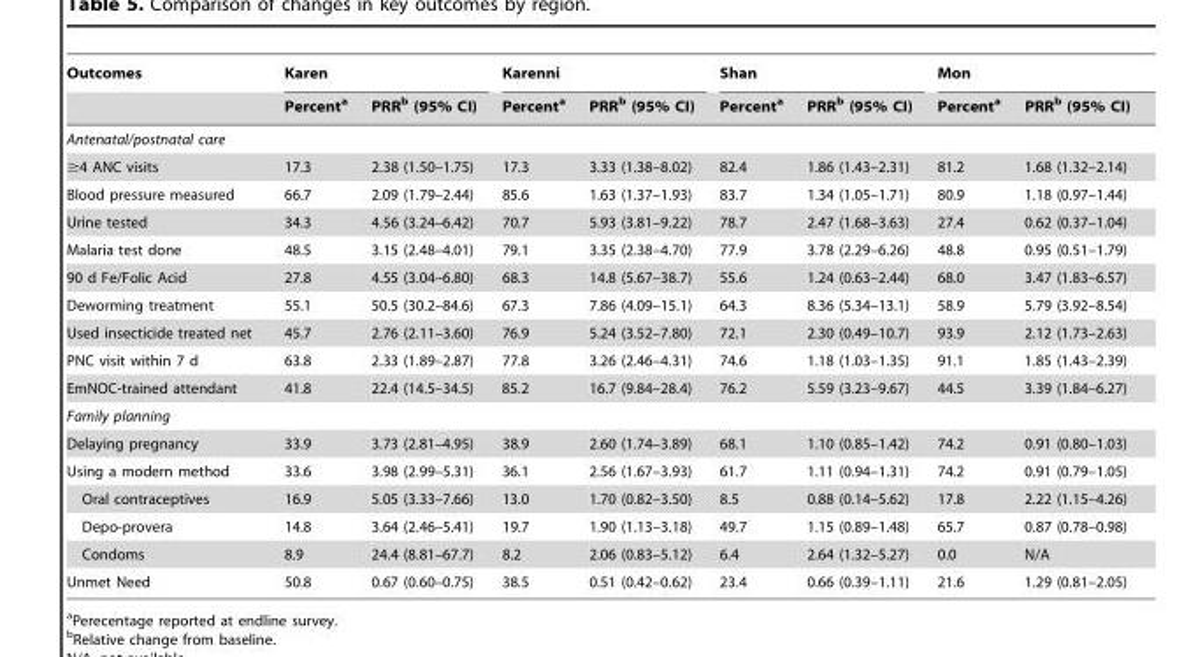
<table><thead><tr><td rowspan="2">Outcomes</td><td colspan="2">Karen</td><td colspan="2">Karenni</td><td colspan="2">Shan</td><td colspan="2">Mon</td></tr><tr><td>Percent<sup>a</sup></td><td>PRR<sup>b</sup> (95% CI)</td><td>Percent<sup>a</sup></td><td>PRR<sup>b</sup> (95% CI)</td><td>Percent<sup>a</sup></td><td>PRR<sup>b</sup> (95% CI)</td><td>Percent<sup>a</sup></td><td>PRR<sup>b</sup> (95% CI)</td></tr></thead><tbody><tr><td colspan="9">Antenatal/postnatal care</td></tr><tr><td>≥4 ANC visits</td><td>17.3</td><td>2.38 (1.50–1.75)</td><td>17.3</td><td>3.33 (1.38–8.02)</td><td>82.4</td><td>1.86 (1.43–2.31)</td><td>81.2</td><td>1.68 (1.32–2.14)</td></tr><tr><td>Blood pressure measured</td><td>66.7</td><td>2.09 (1.79–2.44)</td><td>85.6</td><td>1.63 (1.37–1.93)</td><td>83.7</td><td>1.34 (1.05–1.71)</td><td>80.9</td><td>1.18 (0.97–1.44)</td></tr><tr><td>Urine tested</td><td>34.3</td><td>4.56 (3.24–6.42)</td><td>70.7</td><td>5.93 (3.81–9.22)</td><td>78.7</td><td>2.47 (1.68–3.63)</td><td>27.4</td><td>0.62 (0.37–1.04)</td></tr><tr><td>Malaria test done</td><td>48.5</td><td>3.15 (2.48–4.01)</td><td>79.1</td><td>3.35 (2.38–4.70)</td><td>77.9</td><td>3.78 (2.29–6.26)</td><td>48.8</td><td>0.95 (0.51–1.79)</td></tr><tr><td>90 d Fe/Folic Acid</td><td>27.8</td><td>4.55 (3.04–6.80)</td><td>68.3</td><td>14.8 (5.67–38.7)</td><td>55.6</td><td>1.24 (0.63–2.44)</td><td>68.0</td><td>3.47 (1.83–6.57)</td></tr><tr><td>Deworming treatment</td><td>55.1</td><td>50.5 (30.2–84.6)</td><td>67.3</td><td>7.86 (4.09–15.1)</td><td>64.3</td><td>8.36 (5.34–13.1)</td><td>58.9</td><td>5.79 (3.92–8.54)</td></tr><tr><td>Used insecticide treated net</td><td>45.7</td><td>2.76 (2.11–3.60)</td><td>76.9</td><td>5.24 (3.52–7.80)</td><td>72.1</td><td>2.30 (0.49–10.7)</td><td>93.9</td><td>2.12 (1.73–2.63)</td></tr><tr><td>PNC visit within 7 d</td><td>63.8</td><td>2.33 (1.89–2.87)</td><td>77.8</td><td>3.26 (2.46–4.31)</td><td>74.6</td><td>1.18 (1.03–1.35)</td><td>91.1</td><td>1.85 (1.43–2.39)</td></tr><tr><td>EmNOC-trained attendant</td><td>41.8</td><td>22.4 (14.5–34.5)</td><td>85.2</td><td>16.7 (9.84–28.4)</td><td>76.2</td><td>5.59 (3.23–9.67)</td><td>44.5</td><td>3.39 (1.84–6.27)</td></tr><tr><td colspan="9">Family planning</td></tr><tr><td>Delaying pregnancy</td><td>33.9</td><td>3.73 (2.81–4.95)</td><td>38.9</td><td>2.60 (1.74–3.89)</td><td>68.1</td><td>1.10 (0.85–1.42)</td><td>74.2</td><td>0.91 (0.80–1.03)</td></tr><tr><td>Using a modern method</td><td>33.6</td><td>3.98 (2.99–5.31)</td><td>36.1</td><td>2.56 (1.67–3.93)</td><td>61.7</td><td>1.11 (0.94–1.31)</td><td>74.2</td><td>0.91 (0.79–1.05)</td></tr><tr><td>Oral contraceptives</td><td>16.9</td><td>5.05 (3.33–7.66)</td><td>13.0</td><td>1.70 (0.82–3.50)</td><td>8.5</td><td>0.88 (0.14–5.62)</td><td>17.8</td><td>2.22 (1.15–4.26)</td></tr><tr><td>Depo-provera</td><td>14.8</td><td>3.64 (2.46–5.41)</td><td>19.7</td><td>1.90 (1.13–3.18)</td><td>49.7</td><td>1.15 (0.89–1.48)</td><td>65.7</td><td>0.87 (0.78–0.98)</td></tr><tr><td>Condoms</td><td>8.9</td><td>24.4 (8.81–67.7)</td><td>8.2</td><td>2.06 (0.83–5.12)</td><td>6.4</td><td>2.64 (1.32–5.27)</td><td>0.0</td><td>N/A</td></tr><tr><td>Unmet Need</td><td>50.8</td><td>0.67 (0.60–0.75)</td><td>38.5</td><td>0.51 (0.42–0.62)</td><td>23.4</td><td>0.66 (0.39–1.11)</td><td>21.6</td><td>1.29 (0.81–2.05)</td></tr></tbody></table>